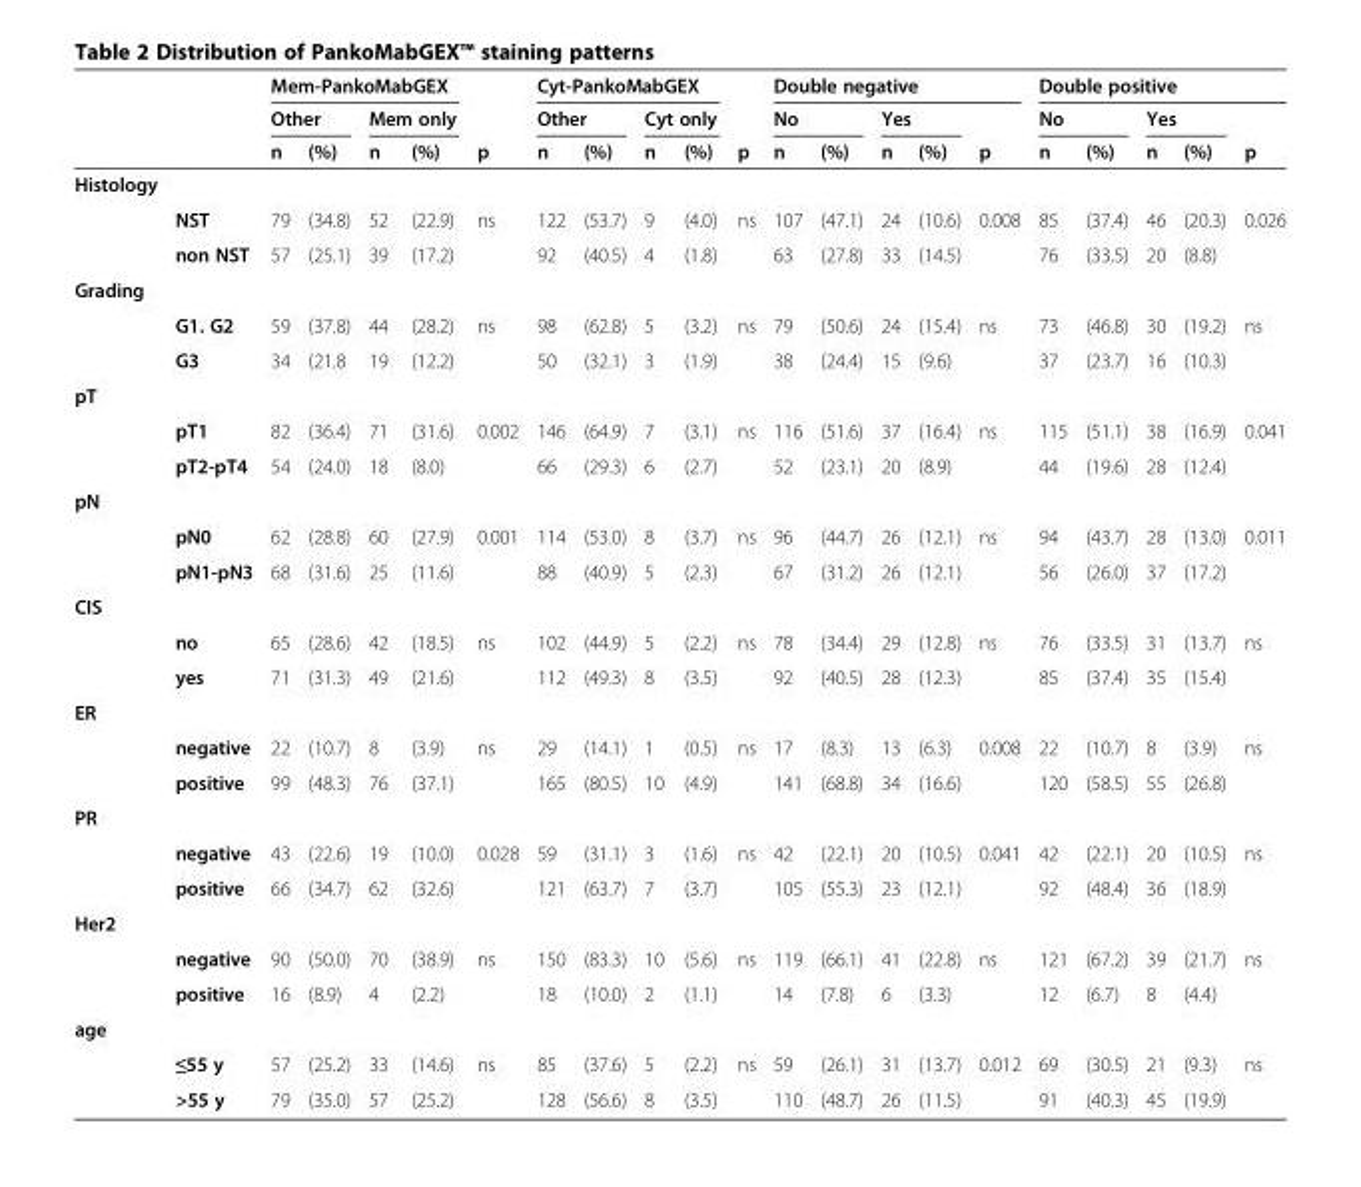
<table><thead><tr><td rowspan="3"></td><td rowspan="3"></td><td colspan="4">Mem-PankoMabGEX</td><td rowspan="3">p</td><td colspan="4">Cyt-PankoMabGEX</td><td rowspan="3">p</td><td colspan="5">Double negative</td><td colspan="5">Double positive</td></tr><tr><td colspan="2">Other</td><td colspan="2">Mem only</td><td colspan="2">Other</td><td colspan="2">Cyt only</td><td colspan="2">No</td><td colspan="2">Yes</td><td rowspan="2">p</td><td colspan="2">No</td><td colspan="2">Yes</td><td rowspan="2">p</td></tr><tr><td>n</td><td>(%)</td><td>n</td><td>(%)</td><td>n</td><td>(%)</td><td>n</td><td>(%)</td><td>n</td><td>(%)</td><td>n</td><td>(%)</td><td>n</td><td>(%)</td><td>n</td><td>(%)</td></tr></thead><tbody><tr><td colspan="22">Histology</td></tr><tr><td></td><td>NST</td><td>79</td><td>(34.8)</td><td>52</td><td>(22.9)</td><td>ns</td><td>122</td><td>(53.7)</td><td>9</td><td>(4.0)</td><td>ns</td><td>107</td><td>(47.1)</td><td>24</td><td>(10.6)</td><td>0.008</td><td>85</td><td>(37.4)</td><td>46</td><td>(20.3)</td><td>0.026</td></tr><tr><td></td><td>non NST</td><td>57</td><td>(25.1)</td><td>39</td><td>(17.2)</td><td></td><td>92</td><td>(40.5)</td><td>4</td><td>(1.8)</td><td></td><td>63</td><td>(27.8)</td><td>33</td><td>(14.5)</td><td></td><td>76</td><td>(33.5)</td><td>20</td><td>(8.8)</td><td></td></tr><tr><td colspan="22">Grading</td></tr><tr><td></td><td>G1. G2</td><td>59</td><td>(37.8)</td><td>44</td><td>(28.2)</td><td>ns</td><td>98</td><td>(62.8)</td><td>5</td><td>(3.2)</td><td>ns</td><td>79</td><td>(50.6)</td><td>24</td><td>(15.4)</td><td>ns</td><td>73</td><td>(46.8)</td><td>30</td><td>(19.2)</td><td>ns</td></tr><tr><td></td><td>G3</td><td>34</td><td>(21.8</td><td>19</td><td>(12.2)</td><td></td><td>50</td><td>(32.1)</td><td>3</td><td>(1.9)</td><td></td><td>38</td><td>(24.4)</td><td>15</td><td>(9.6)</td><td></td><td>37</td><td>(23.7)</td><td>16</td><td>(10.3)</td><td></td></tr><tr><td colspan="22">pT</td></tr><tr><td></td><td>pT1</td><td>82</td><td>(36.4)</td><td>71</td><td>(31.6)</td><td>0.002</td><td>146</td><td>(64.9)</td><td>7</td><td>(3.1)</td><td>ns</td><td>116</td><td>(51.6)</td><td>37</td><td>(16.4)</td><td>ns</td><td>115</td><td>(51.1)</td><td>38</td><td>(16.9)</td><td>0.041</td></tr><tr><td></td><td>pT2-pT4</td><td>54</td><td>(24.0)</td><td>18</td><td>(8.0)</td><td></td><td>66</td><td>(29.3)</td><td>6</td><td>(2.7)</td><td></td><td>52</td><td>(23.1)</td><td>20</td><td>(8.9)</td><td></td><td>44</td><td>(19.6)</td><td>28</td><td>(12.4)</td><td></td></tr><tr><td colspan="22">pN</td></tr><tr><td></td><td>pN0</td><td>62</td><td>(28.8)</td><td>60</td><td>(27.9)</td><td>0.001</td><td>114</td><td>(53.0)</td><td>8</td><td>(3.7)</td><td>ns</td><td>96</td><td>(44.7)</td><td>26</td><td>(12.1)</td><td>ns</td><td>94</td><td>(43.7)</td><td>28</td><td>(13.0)</td><td>0.011</td></tr><tr><td></td><td>pN1-pN3</td><td>68</td><td>(31.6)</td><td>25</td><td>(11.6)</td><td></td><td>88</td><td>(40.9)</td><td>5</td><td>(2.3)</td><td></td><td>67</td><td>(31.2)</td><td>26</td><td>(12.1)</td><td></td><td>56</td><td>(26.0)</td><td>37</td><td>(17.2)</td><td></td></tr><tr><td colspan="22">CIS</td></tr><tr><td></td><td>no</td><td>65</td><td>(28.6)</td><td>42</td><td>(18.5)</td><td>ns</td><td>102</td><td>(44.9)</td><td>5</td><td>(2.2)</td><td>ns</td><td>78</td><td>(34.4)</td><td>29</td><td>(12.8)</td><td>ns</td><td>76</td><td>(33.5)</td><td>31</td><td>(13.7)</td><td>ns</td></tr><tr><td></td><td>yes</td><td>71</td><td>(31.3)</td><td>49</td><td>(21.6)</td><td></td><td>112</td><td>(49.3)</td><td>8</td><td>(3.5)</td><td></td><td>92</td><td>(40.5)</td><td>28</td><td>(12.3)</td><td></td><td>85</td><td>(37.4)</td><td>35</td><td>(15.4)</td><td></td></tr><tr><td colspan="22">ER</td></tr><tr><td></td><td>negative</td><td>22</td><td>(10.7)</td><td>8</td><td>(3.9)</td><td>ns</td><td>29</td><td>(14.1)</td><td>1</td><td>(0.5)</td><td>ns</td><td>17</td><td>(8.3)</td><td>13</td><td>(6.3)</td><td>0.008</td><td>22</td><td>(10.7)</td><td>8</td><td>(3.9)</td><td>ns</td></tr><tr><td></td><td>positive</td><td>99</td><td>(48.3)</td><td>76</td><td>(37.1)</td><td></td><td>165</td><td>(80.5)</td><td>10</td><td>(4.9)</td><td></td><td>141</td><td>(68.8)</td><td>34</td><td>(16.6)</td><td></td><td>120</td><td>(58.5)</td><td>55</td><td>(26.8)</td><td></td></tr><tr><td colspan="22">PR</td></tr><tr><td></td><td>negative</td><td>43</td><td>(22.6)</td><td>19</td><td>(10.0)</td><td>0.028</td><td>59</td><td>(31.1)</td><td>3</td><td>(1.6)</td><td>ns</td><td>42</td><td>(22.1)</td><td>20</td><td>(10.5)</td><td>0.041</td><td>42</td><td>(22.1)</td><td>20</td><td>(10.5)</td><td>ns</td></tr><tr><td></td><td>positive</td><td>66</td><td>(34.7)</td><td>62</td><td>(32.6)</td><td></td><td>121</td><td>(63.7)</td><td>7</td><td>(3.7)</td><td></td><td>105</td><td>(55.3)</td><td>23</td><td>(12.1)</td><td></td><td>92</td><td>(48.4)</td><td>36</td><td>(18.9)</td><td></td></tr><tr><td colspan="22">Her2</td></tr><tr><td></td><td>negative</td><td>90</td><td>(50.0)</td><td>70</td><td>(38.9)</td><td>ns</td><td>150</td><td>(83.3)</td><td>10</td><td>(5.6)</td><td>ns</td><td>119</td><td>(66.1)</td><td>41</td><td>(22.8)</td><td>ns</td><td>121</td><td>(67.2)</td><td>39</td><td>(21.7)</td><td>ns</td></tr><tr><td></td><td>positive</td><td>16</td><td>(8.9)</td><td>4</td><td>(2.2)</td><td></td><td>18</td><td>(10.0)</td><td>2</td><td>(1.1)</td><td></td><td>14</td><td>(7.8)</td><td>6</td><td>(3.3)</td><td></td><td>12</td><td>(6.7)</td><td>8</td><td>(4.4)</td><td></td></tr><tr><td colspan="22">age</td></tr><tr><td></td><td>≤55 y</td><td>57</td><td>(25.2)</td><td>33</td><td>(14.6)</td><td>ns</td><td>85</td><td>(37.6)</td><td>5</td><td>(2.2)</td><td>ns</td><td>59</td><td>(26.1)</td><td>31</td><td>(13.7)</td><td>0.012</td><td>69</td><td>(30.5)</td><td>21</td><td>(9.3)</td><td>ns</td></tr><tr><td></td><td>&gt;55 y</td><td>79</td><td>(35.0)</td><td>57</td><td>(25.2)</td><td></td><td>128</td><td>(56.6)</td><td>8</td><td>(3.5)</td><td></td><td>110</td><td>(48.7)</td><td>26</td><td>(11.5)</td><td></td><td>91</td><td>(40.3)</td><td>45</td><td>(19.9)</td><td></td></tr></tbody></table>